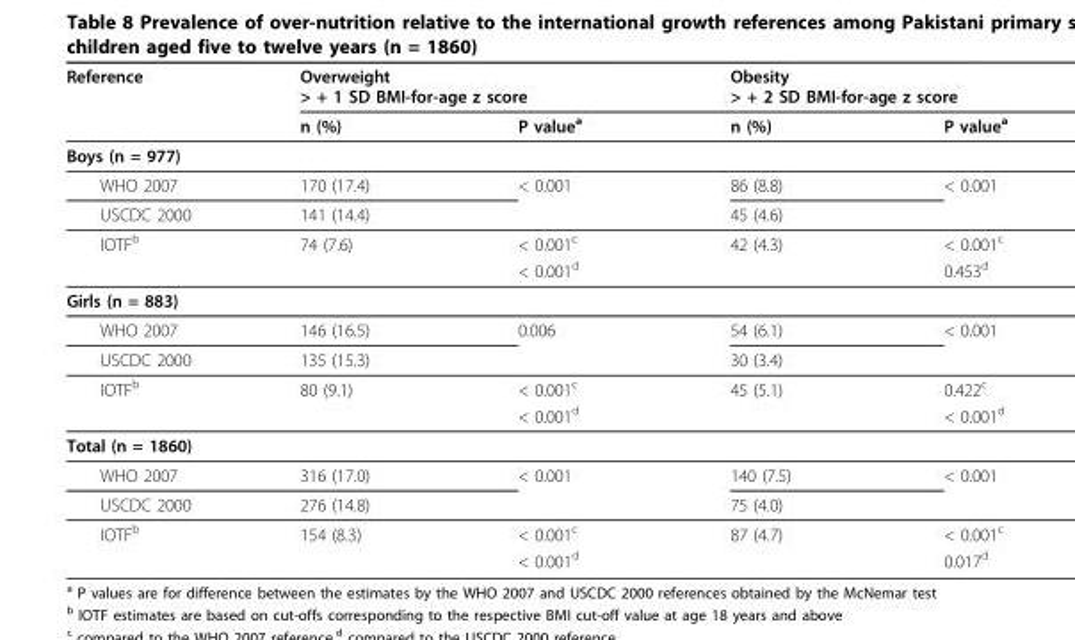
<table><thead><tr><td rowspan="2">Reference</td><td colspan="2">Overweight &gt; + 1 SD BMI-for-age z score</td><td colspan="2">Obesity &gt; + 2 SD BMI-for-age z score</td></tr><tr><td>n (%)</td><td>P value<sup>a</sup></td><td>n (%)</td><td>P value<sup>a</sup></td></tr></thead><tbody><tr><td colspan="5">Boys (n = 977)</td></tr><tr><td>WHO 2007</td><td>170 (17.4)</td><td>&lt; 0.001</td><td>86 (8.8)</td><td>&lt; 0.001</td></tr><tr><td>USCDC 2000</td><td>141 (14.4)</td><td></td><td>45 (4.6)</td><td></td></tr><tr><td rowspan="2">IOTF<sup>b</sup></td><td>74 (7.6)</td><td>&lt; 0.001<sup>c</sup></td><td>42 (4.3)</td><td>&lt; 0.001<sup>c</sup></td></tr><tr><td></td><td>&lt; 0.001<sup>d</sup></td><td></td><td>0.453<sup>d</sup></td></tr><tr><td colspan="5">Girls (n = 883)</td></tr><tr><td>WHO 2007</td><td>146 (16.5)</td><td>0.006</td><td>54 (6.1)</td><td>&lt; 0.001</td></tr><tr><td>USCDC 2000</td><td>135 (15.3)</td><td></td><td>30 (3.4)</td><td></td></tr><tr><td rowspan="2">IOTF<sup>b</sup></td><td>80 (9.1)</td><td>&lt; 0.001<sup>c</sup></td><td>45 (5.1)</td><td>0.422<sup>c</sup></td></tr><tr><td></td><td>&lt; 0.001<sup>d</sup></td><td></td><td>&lt; 0.001<sup>d</sup></td></tr><tr><td colspan="5">Total (n = 1860)</td></tr><tr><td>WHO 2007</td><td>316 (17.0)</td><td>&lt; 0.001</td><td>140 (7.5)</td><td>&lt; 0.001</td></tr><tr><td>USCDC 2000</td><td>276 (14.8)</td><td></td><td>75 (4.0)</td><td></td></tr><tr><td rowspan="2">IOTF<sup>b</sup></td><td>154 (8.3)</td><td>&lt; 0.001<sup>c</sup></td><td>87 (4.7)</td><td>&lt; 0.001<sup>c</sup></td></tr><tr><td></td><td>&lt; 0.001<sup>d</sup></td><td></td><td>0.017<sup>d</sup></td></tr></tbody></table>